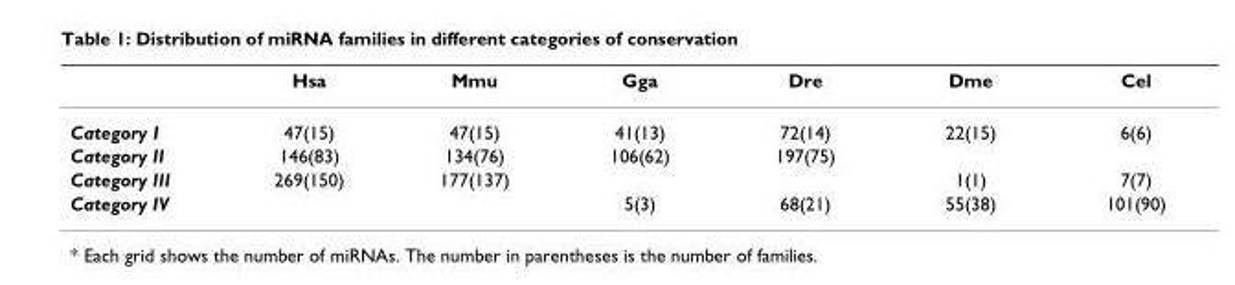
<table><thead><tr><td></td><td>Hsa</td><td>Mmu</td><td>Gga</td><td>Dre</td><td>Dme</td><td>Cel</td></tr></thead><tbody><tr><td>Category I</td><td>47(15)</td><td>47(15)</td><td>41(13)</td><td>72(14)</td><td>22(15)</td><td>6(6)</td></tr><tr><td>Category II</td><td>146(83)</td><td>134(76)</td><td>106(62)</td><td>197(75)</td><td></td><td></td></tr><tr><td>Category III</td><td>269(150)</td><td>177(137)</td><td></td><td></td><td>1(1)</td><td>7(7)</td></tr><tr><td>Category IV</td><td></td><td></td><td>5(3)</td><td>68(21)</td><td>55(38)</td><td>101(90)</td></tr></tbody></table>